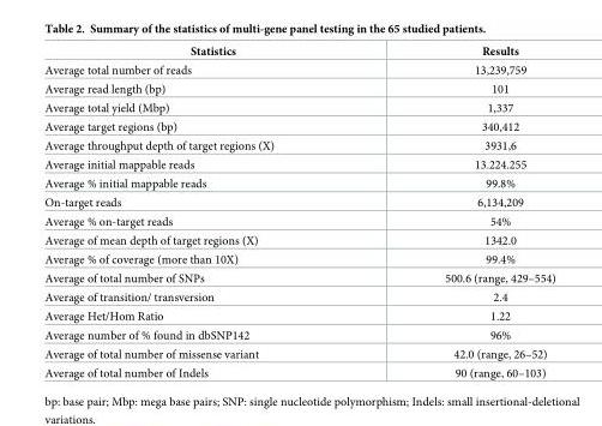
<table><thead><tr><td>Statistics</td><td>Results</td></tr></thead><tbody><tr><td>Average total number of reads</td><td>13,239,759</td></tr><tr><td>Average read length (bp)</td><td>101</td></tr><tr><td>Average total yield (Mbp)</td><td>1,337</td></tr><tr><td>Average target regions (bp)</td><td>340,412</td></tr><tr><td>Average throughput depth of target regions (X)</td><td>3931,6</td></tr><tr><td>Average initial mappable reads</td><td>13.224.255</td></tr><tr><td>Average % initial mappable reads</td><td>99.8%</td></tr><tr><td>On-target reads</td><td>6,134,209</td></tr><tr><td>Average % on-target reads</td><td>54%</td></tr><tr><td>Average of mean depth of target regions (X)</td><td>1342.0</td></tr><tr><td>Average % of coverage (more than 10X)</td><td>99.4%</td></tr><tr><td>Average of total number of SNPs</td><td>500.6 (range, 429–554)</td></tr><tr><td>Average of transition/ transversion</td><td>2.4</td></tr><tr><td>Average Het/Hom Ratio</td><td>1.22</td></tr><tr><td>Average number of % found in dbSNP142</td><td>96%</td></tr><tr><td>Average of total number of missense variant</td><td>42.0 (range, 26–52)</td></tr><tr><td>Average of total number of Indels</td><td>90 (range, 60–103)</td></tr></tbody></table>